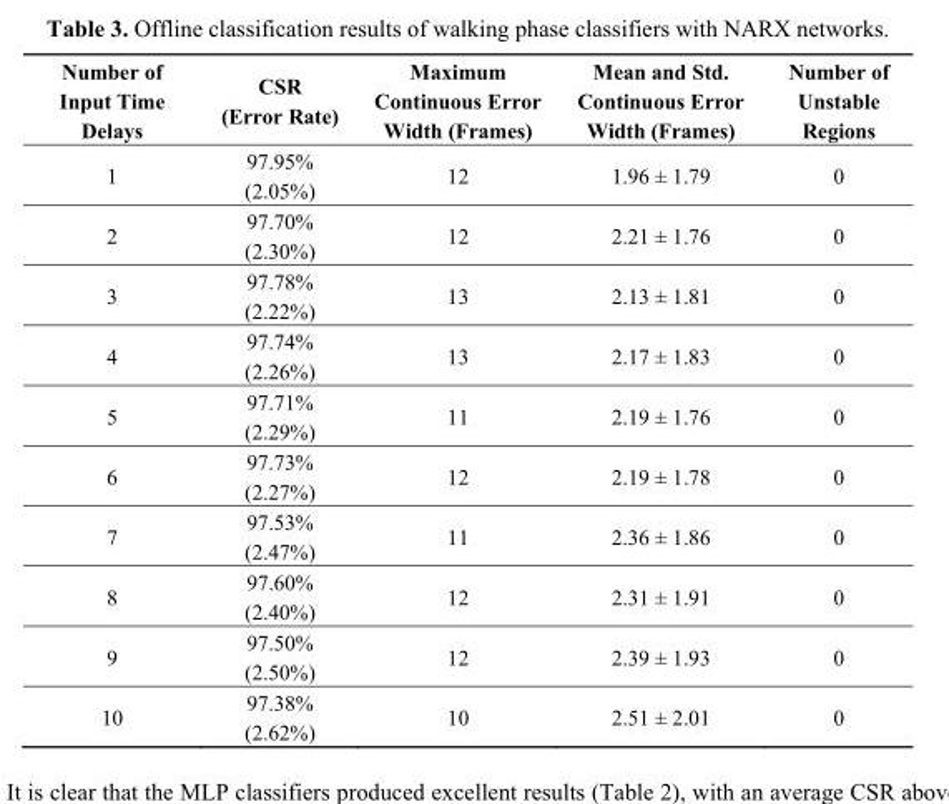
<table><thead><tr><td>Number of Input Time Delays</td><td>CSR (Error Rate)</td><td>Maximum Continuous Error Width (Frames)</td><td>Mean and Std. Continuous Error Width (Frames)</td><td>Number of Unstable Regions</td></tr></thead><tbody><tr><td>1</td><td>97.95% (2.05%)</td><td>12</td><td>1.96 ± 1.79</td><td>0</td></tr><tr><td>2</td><td>97.70% (2.30%)</td><td>12</td><td>2.21 ± 1.76</td><td>0</td></tr><tr><td>3</td><td>97.78% (2.22%)</td><td>13</td><td>2.13 ± 1.81</td><td>0</td></tr><tr><td>4</td><td>97.74% (2.26%)</td><td>13</td><td>2.17 ± 1.83</td><td>0</td></tr><tr><td>5</td><td>97.71% (2.29%)</td><td>11</td><td>2.19 ± 1.76</td><td>0</td></tr><tr><td>6</td><td>97.73% (2.27%)</td><td>12</td><td>2.19 ± 1.78</td><td>0</td></tr><tr><td>7</td><td>97.53% (2.47%)</td><td>11</td><td>2.36 ± 1.86</td><td>0</td></tr><tr><td>8</td><td>97.60% (2.40%)</td><td>12</td><td>2.31 ± 1.91</td><td>0</td></tr><tr><td>9</td><td>97.50% (2.50%)</td><td>12</td><td>2.39 ± 1.93</td><td>0</td></tr><tr><td>10</td><td>97.38% (2.62%)</td><td>10</td><td>2.51 ± 2.01</td><td>0</td></tr></tbody></table>